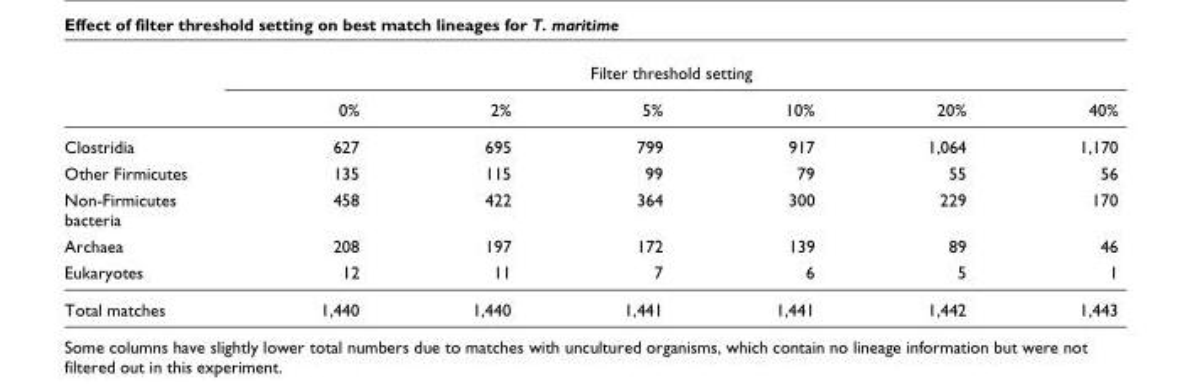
<table><thead><tr><td rowspan="2"></td><td colspan="6">Filter threshold setting</td></tr><tr><td>0%</td><td>2%</td><td>5%</td><td>10%</td><td>20%</td><td>40%</td></tr></thead><tbody><tr><td>Clostridia</td><td>627</td><td>695</td><td>799</td><td>917</td><td>1,064</td><td>1,170</td></tr><tr><td>Other Firmicutes</td><td>135</td><td>115</td><td>99</td><td>79</td><td>55</td><td>56</td></tr><tr><td>Non-Firmicutes bacteria</td><td>458</td><td>422</td><td>364</td><td>300</td><td>229</td><td>170</td></tr><tr><td>Archaea</td><td>208</td><td>197</td><td>172</td><td>139</td><td>89</td><td>46</td></tr><tr><td>Eukaryotes</td><td>12</td><td>11</td><td>7</td><td>6</td><td>5</td><td>1</td></tr><tr><td>Total matches</td><td>1,440</td><td>1,440</td><td>1,441</td><td>1,441</td><td>1,442</td><td>1,443</td></tr></tbody></table>